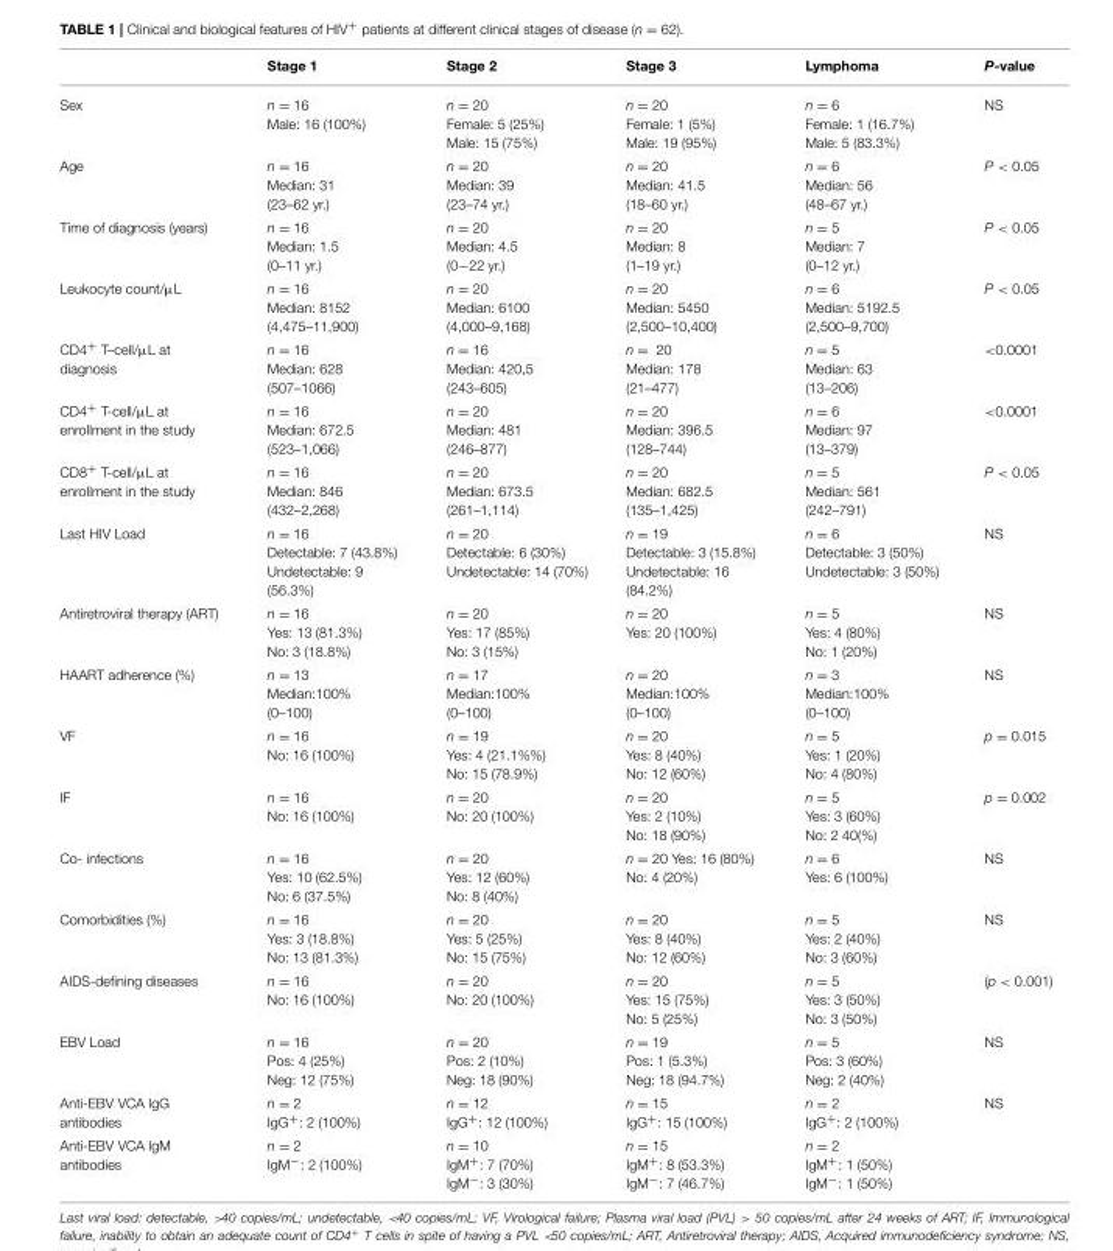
<table><thead><tr><td></td><td>Stage 1</td><td>Stage 2</td><td>Stage 3</td><td>Lymphoma</td><td>P-value</td></tr></thead><tbody><tr><td>Sex</td><td>n = 16 Male: 16 (100%)</td><td>n = 20 Female: 5 (25%) Male: 15 (75%)</td><td>n = 20 Female: 1 (5%) Male: 19 (95%)</td><td>n = 6 Female: 1 (16.7%) Male: 5 (83.3%)</td><td>NS</td></tr><tr><td>Age</td><td>n = 16 Median: 31 (23–62 yr.)</td><td>n = 20 Median: 39 (23–74 yr.)</td><td>n = 20 Median: 41.5 (18–60 yr.)</td><td>n = 6 Median: 56 (48–67 yr.)</td><td>P &lt; 0.05</td></tr><tr><td>Time of diagnosis (years)</td><td>n = 16 Median: 1.5 (0–11 yr.)</td><td>n = 20 Median: 4.5 (0−22 yr.)</td><td>n = 20 Median: 8 (1–19 yr.)</td><td>n = 5 Median: 7 (0–12 yr.)</td><td>P &lt; 0.05</td></tr><tr><td>Leukocyte count/µL</td><td>n = 16 Median: 8152 (4,475–11,900)</td><td>n = 20 Median: 6100 (4,000–9,168)</td><td>n = 20 Median: 5450 (2,500–10,400)</td><td>n = 6 Median: 5192.5 (2,500–9,700)</td><td>P &lt; 0.05</td></tr><tr><td>CD4<sup>+</sup> T–cell/µL at diagnosis</td><td>n = 16 Median: 628 (507–1066)</td><td>n = 16 Median: 420,5 (243–605)</td><td>n = 20 Median: 178 (21–477)</td><td>n = 5 Median: 63 (13–206)</td><td>&lt;0.0001</td></tr><tr><td>CD4<sup>+</sup> T-cell/µL at enrollment in the study</td><td>n = 16 Median: 672.5 (523–1,066)</td><td>n = 20 Median: 481 (246–877)</td><td>n = 20 Median: 396.5 (128–744)</td><td>n = 6 Median: 97 (13–379)</td><td>&lt;0.0001</td></tr><tr><td>CD8<sup>+</sup> T-cell/µL at enrollment in the study</td><td>n = 16 Median: 846 (432–2,268)</td><td>n = 20 Median: 673.5 (261–1,114)</td><td>n = 20 Median: 682.5 (135–1,425)</td><td>n = 5 Median: 561 (242–791)</td><td>P &lt; 0.05</td></tr><tr><td>Last HIV Load</td><td>n = 16 Detectable: 7 (43.8%) Undetectable: 9 (56.3%)</td><td>n = 20 Detectable: 6 (30%) Undetectable: 14 (70%)</td><td>n = 19 Detectable: 3 (15.8%) Undetectable: 16 (84.2%)</td><td>n = 6 Detectable: 3 (50%) Undetectable: 3 (50%)</td><td>NS</td></tr><tr><td>Antiretroviral therapy (ART)</td><td>n = 16 Yes: 13 (81.3%) No: 3 (18.8%)</td><td>n = 20 Yes: 17 (85%) No: 3 (15%)</td><td>n = 20 Yes: 20 (100%)</td><td>n = 5 Yes: 4 (80%) No: 1 (20%)</td><td>NS</td></tr><tr><td>HAART adherence (%)</td><td>n = 13 Median:100% (0–100)</td><td>n = 17 Median:100% (0–100)</td><td>n = 20 Median:100% (0–100)</td><td>n = 3 Median:100% (0–100)</td><td>NS</td></tr><tr><td>VF</td><td>n = 16 No: 16 (100%)</td><td>n = 19 Yes: 4 (21.1%%) No: 15 (78.9%)</td><td>n = 20 Yes: 8 (40%) No: 12 (60%)</td><td>n = 5 Yes: 1 (20%) No: 4 (80%)</td><td>p = 0.015</td></tr><tr><td>IF</td><td>n = 16 No: 16 (100%)</td><td>n = 20 No: 20 (100%)</td><td>n = 20 Yes: 2 (10%) No: 18 (90%)</td><td>n = 5 Yes: 3 (60%) No: 2 40(%)</td><td>p = 0.002</td></tr><tr><td>Co- infections</td><td>n = 16 Yes: 10 (62.5%) No: 6 (37.5%)</td><td>n = 20 Yes: 12 (60%) No: 8 (40%)</td><td>n = 20 Yes: 16 (80%) No: 4 (20%)</td><td>n = 6 Yes: 6 (100%)</td><td>NS</td></tr><tr><td>Comorbidities (%)</td><td>n = 16 Yes: 3 (18.8%) No: 13 (81.3%)</td><td>n = 20 Yes: 5 (25%) No: 15 (75%)</td><td>n = 20 Yes: 8 (40%) No: 12 (60%)</td><td>n = 5 Yes: 2 (40%) No: 3 (60%)</td><td>NS</td></tr><tr><td>AIDS-defining diseases</td><td>n = 16 No: 16 (100%)</td><td>n = 20 No: 20 (100%)</td><td>n = 20 Yes: 15 (75%) No: 5 (25%)</td><td>n = 5 Yes: 3 (50%) No: 3 (50%)</td><td>(p &lt; 0.001)</td></tr><tr><td>EBV Load</td><td>n = 16 Pos: 4 (25%) Neg: 12 (75%)</td><td>n = 20 Pos: 2 (10%) Neg: 18 (90%)</td><td>n = 19 Pos: 1 (5.3%) Neg: 18 (94.7%)</td><td>n = 5 Pos: 3 (60%) Neg: 2 (40%)</td><td>NS</td></tr><tr><td>Anti-EBV VCA IgG antibodies</td><td>n = 2 IgG<sup>+</sup>: 2 (100%)</td><td>n = 12 IgG<sup>+</sup>: 12 (100%)</td><td>n = 15 IgG<sup>+</sup>: 15 (100%)</td><td>n = 2 IgG<sup>+</sup>: 2 (100%)</td><td>NS</td></tr><tr><td>Anti-EBV VCA IgM antibodies</td><td>n = 2 IgM<sup>−</sup>: 2 (100%)</td><td>n = 10 IgM<sup>+</sup>: 7 (70%) IgM<sup>−</sup>: 3 (30%)</td><td>n = 15 IgM<sup>+</sup>: 8 (53.3%) IgM<sup>−</sup>: 7 (46.7%)</td><td>n = 2 IgM<sup>+</sup>: 1 (50%) IgM<sup>−</sup>: 1 (50%)</td><td></td></tr></tbody></table>